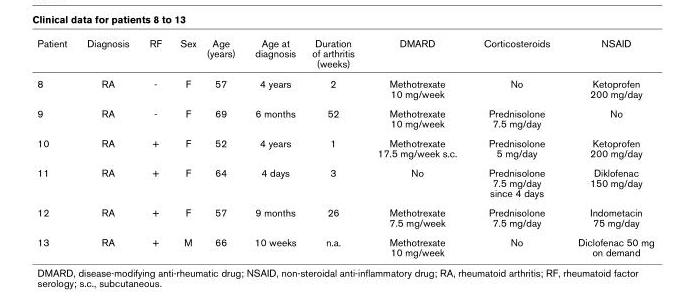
<table><thead><tr><td>Patient</td><td>Diagnosis</td><td>RF</td><td>Sex</td><td>Age (years)</td><td>Age at diagnosis</td><td>Duration of arthritis (weeks)</td><td>DMARD</td><td>Corticosteroids</td><td>NSAID</td></tr></thead><tbody><tr><td>8</td><td>RA</td><td>-</td><td>F</td><td>57</td><td>4 years</td><td>2</td><td>Methotrexate 10 mg/week</td><td>No</td><td>Ketoprofen 200 mg/day</td></tr><tr><td>9</td><td>RA</td><td>-</td><td>F</td><td>69</td><td>6 months</td><td>52</td><td>Methotrexate 10 mg/week</td><td>Prednisolone 7.5 mg/day</td><td>No</td></tr><tr><td>10</td><td>RA</td><td>+</td><td>F</td><td>52</td><td>4 years</td><td>1</td><td>Methotrexate 17.5 mg/week s.c.</td><td>Prednisolone 5 mg/day</td><td>Ketoprofen 200 mg/day</td></tr><tr><td>11</td><td>RA</td><td>+</td><td>F</td><td>64</td><td>4 days</td><td>3</td><td>No</td><td>Prednisolone 7.5 mg/day since 4 days</td><td>Diklofenac 150 mg/day</td></tr><tr><td>12</td><td>RA</td><td>+</td><td>F</td><td>57</td><td>9 months</td><td>26</td><td>Methotrexate 7.5 mg/week</td><td>Prednisolone 7.5 mg/day</td><td>Indometacin 75 mg/day</td></tr><tr><td>13</td><td>RA</td><td>+</td><td>M</td><td>66</td><td>10 weeks</td><td>n.a.</td><td>Methotrexate 10 mg/week</td><td>No</td><td>Diclofenac 50 mg on demand</td></tr></tbody></table>